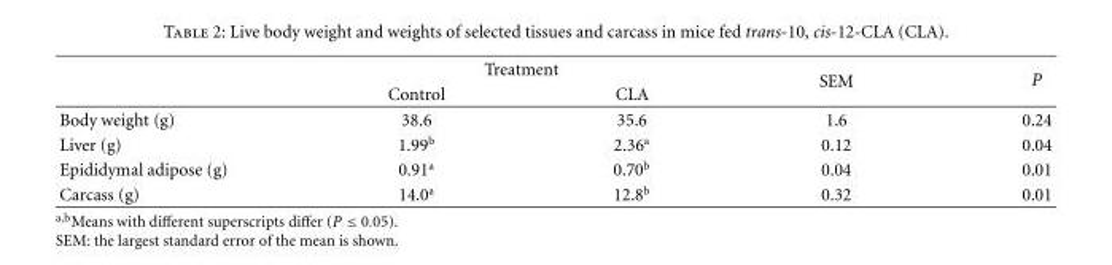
<table><thead><tr><td rowspan="2"></td><td colspan="2">Treatment</td><td rowspan="2">SEM</td><td rowspan="2">P</td></tr><tr><td>Control</td><td>CLA</td></tr></thead><tbody><tr><td>Body weight (g)</td><td>38.6</td><td>35.6</td><td>1.6</td><td>0.24</td></tr><tr><td>Liver (g)</td><td>1.99<sup>b</sup></td><td>2.36<sup>a</sup></td><td>0.12</td><td>0.04</td></tr><tr><td>Epididymal adipose (g)</td><td>0.91<sup>a</sup></td><td>0.70<sup>b</sup></td><td>0.04</td><td>0.01</td></tr><tr><td>Carcass (g)</td><td>14.0<sup>a</sup></td><td>12.8<sup>b</sup></td><td>0.32</td><td>0.01</td></tr></tbody></table>